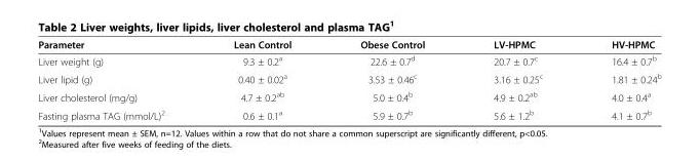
<table><thead><tr><td>Parameter</td><td>Lean Control</td><td>Obese Control</td><td>LV-HPMC</td><td>HV-HPMC</td></tr></thead><tbody><tr><td>Liver weight (g)</td><td>9.3 ± 0.2<sup>a</sup></td><td>22.6 ± 0.7<sup>d</sup></td><td>20.7 ± 0.7<sup>c</sup></td><td>16.4 ± 0.7<sup>b</sup></td></tr><tr><td>Liver lipid (g)</td><td>0.40 ± 0.02<sup>a</sup></td><td>3.53 ± 0.46<sup>c</sup></td><td>3.16 ± 0.25<sup>c</sup></td><td>1.81 ± 0.24<sup>b</sup></td></tr><tr><td>Liver cholesterol (mg/g)</td><td>4.7 ± 0.2<sup>ab</sup></td><td>5.0 ± 0.4<sup>b</sup></td><td>4.9 ± 0.2<sup>ab</sup></td><td>4.0 ± 0.4<sup>a</sup></td></tr><tr><td>Fasting plasma TAG (mmol/L)<sup>2</sup></td><td>0.6 ± 0.1<sup>a</sup></td><td>5.9 ± 0.7<sup>b</sup></td><td>5.6 ± 1.2<sup>b</sup></td><td>4.1 ± 0.7<sup>b</sup></td></tr></tbody></table>